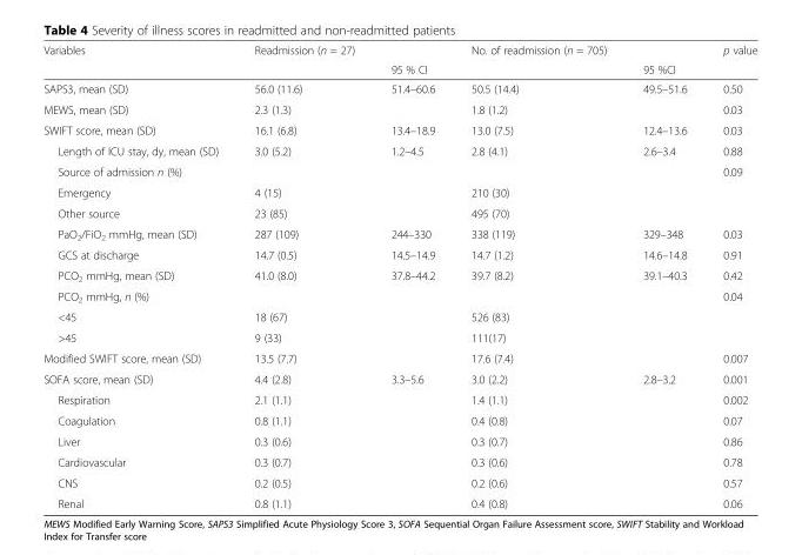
<table><thead><tr><td rowspan="2">Variables</td><td rowspan="2">Readmission (n = 27)</td><td rowspan="2">95 % CI</td><td rowspan="2">No. of readmission (n = 705)</td><td rowspan="2">95 %CI</td><td rowspan="2">p value</td></tr><tr></tr></thead><tbody><tr><td>SAPS3, mean (SD)</td><td>56.0 (11.6)</td><td>51.4–60.6</td><td>50.5 (14.4)</td><td>49.5–51.6</td><td>0.50</td></tr><tr><td>MEWS, mean (SD)</td><td>2.3 (1.3)</td><td></td><td>1.8 (1.2)</td><td></td><td>0.03</td></tr><tr><td>SWIFT score, mean (SD)</td><td>16.1 (6.8)</td><td>13.4–18.9</td><td>13.0 (7.5)</td><td>12.4–13.6</td><td>0.03</td></tr><tr><td>Length of ICU stay, dy, mean (SD)</td><td>3.0 (5.2)</td><td>1.2–4.5</td><td>2.8 (4.1)</td><td>2.6–3.4</td><td>0.88</td></tr><tr><td>Source of admission n (%)</td><td></td><td></td><td></td><td></td><td>0.09</td></tr><tr><td>Emergency</td><td>4 (15)</td><td></td><td>210 (30)</td><td></td><td></td></tr><tr><td>Other source</td><td>23 (85)</td><td></td><td>495 (70)</td><td></td><td></td></tr><tr><td>PaO<sub>2</sub>/FiO<sub>2</sub> mmHg, mean (SD)</td><td>287 (109)</td><td>244–330</td><td>338 (119)</td><td>329–348</td><td>0.03</td></tr><tr><td>GCS at discharge</td><td>14.7 (0.5)</td><td>14.5–14.9</td><td>14.7 (1.2)</td><td>14.6–14.8</td><td>0.91</td></tr><tr><td>PCO<sub>2</sub> mmHg, mean (SD)</td><td>41.0 (8.0)</td><td>37.8–44.2</td><td>39.7 (8.2)</td><td>39.1–40.3</td><td>0.42</td></tr><tr><td>PCO<sub>2</sub> mmHg, n (%)</td><td></td><td></td><td></td><td></td><td>0.04</td></tr><tr><td>&lt;45</td><td>18 (67)</td><td></td><td>526 (83)</td><td></td><td></td></tr><tr><td>&gt;45</td><td>9 (33)</td><td></td><td>111(17)</td><td></td><td></td></tr><tr><td>Modified SWIFT score, mean (SD)</td><td>13.5 (7.7)</td><td></td><td>17.6 (7.4)</td><td></td><td>0.007</td></tr><tr><td>SOFA score, mean (SD)</td><td>4.4 (2.8)</td><td>3.3–5.6</td><td>3.0 (2.2)</td><td>2.8–3.2</td><td>0.001</td></tr><tr><td>Respiration</td><td>2.1 (1.1)</td><td></td><td>1.4 (1.1)</td><td></td><td>0.002</td></tr><tr><td>Coagulation</td><td>0.8 (1.1)</td><td></td><td>0.4 (0.8)</td><td></td><td>0.07</td></tr><tr><td>Liver</td><td>0.3 (0.6)</td><td></td><td>0.3 (0.7)</td><td></td><td>0.86</td></tr><tr><td>Cardiovascular</td><td>0.3 (0.7)</td><td></td><td>0.3 (0.6)</td><td></td><td>0.78</td></tr><tr><td>CNS</td><td>0.2 (0.5)</td><td></td><td>0.2 (0.6)</td><td></td><td>0.57</td></tr><tr><td>Renal</td><td>0.8 (1.1)</td><td></td><td>0.4 (0.8)</td><td></td><td>0.06</td></tr></tbody></table>